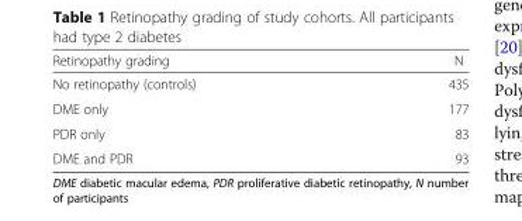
<table><thead><tr><td>Retinopathy grading</td><td>N</td></tr></thead><tbody><tr><td>No retinopathy (controls)</td><td>435</td></tr><tr><td>DME only</td><td>177</td></tr><tr><td>PDR only</td><td>83</td></tr><tr><td>DME and PDR</td><td>93</td></tr></tbody></table>